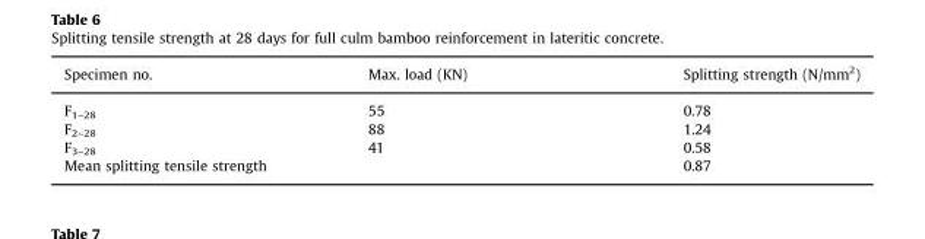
<table><thead><tr><td>Specimen no.</td><td>Max. load (KN)</td><td>Splitting strength (N/mm<sup>2</sup>)</td></tr></thead><tbody><tr><td>F<sub>1–28</sub></td><td>55</td><td>0.78</td></tr><tr><td>F<sub>2–28</sub></td><td>88</td><td>1.24</td></tr><tr><td>F<sub>3–28</sub></td><td>41</td><td>0.58</td></tr><tr><td colspan="2">Mean splitting tensile strength</td><td>0.87</td></tr></tbody></table>